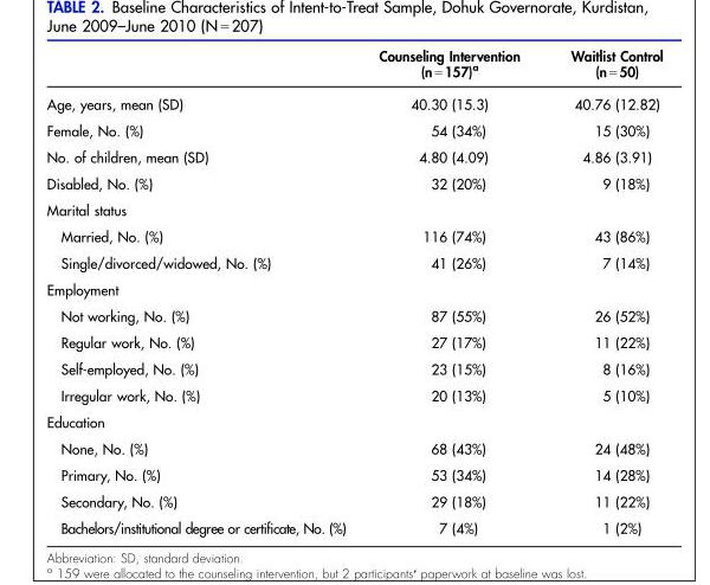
<table><thead><tr><td></td><td>Counseling Intervention (n = 157)<sup>a</sup></td><td>Waitlist Control (n = 50)</td></tr></thead><tbody><tr><td>Age, years, mean (SD)</td><td>40.30 (15.3)</td><td>40.76 (12.82)</td></tr><tr><td>Female, No. (%)</td><td>54 (34%)</td><td>15 (30%)</td></tr><tr><td>No. of children, mean (SD)</td><td>4.80 (4.09)</td><td>4.86 (3.91)</td></tr><tr><td>Disabled, No. (%)</td><td>32 (20%)</td><td>9 (18%)</td></tr><tr><td colspan="3">Marital status</td></tr><tr><td>Married, No. (%)</td><td>116 (74%)</td><td>43 (86%)</td></tr><tr><td>Single/divorced/widowed, No. (%)</td><td>41 (26%)</td><td>7 (14%)</td></tr><tr><td colspan="3">Employment</td></tr><tr><td>Not working, No. (%)</td><td>87 (55%)</td><td>26 (52%)</td></tr><tr><td>Regular work, No. (%)</td><td>27 (17%)</td><td>11 (22%)</td></tr><tr><td>Self-employed, No. (%)</td><td>23 (15%)</td><td>8 (16%)</td></tr><tr><td>Irregular work, No. (%)</td><td>20 (13%)</td><td>5 (10%)</td></tr><tr><td colspan="3">Education</td></tr><tr><td>None, No. (%)</td><td>68 (43%)</td><td>24 (48%)</td></tr><tr><td>Primary, No. (%)</td><td>53 (34%)</td><td>14 (28%)</td></tr><tr><td>Secondary, No. (%)</td><td>29 (18%)</td><td>11 (22%)</td></tr><tr><td>Bachelors/institutional degree or certificate, No. (%)</td><td>7 (4%)</td><td>1 (2%)</td></tr></tbody></table>